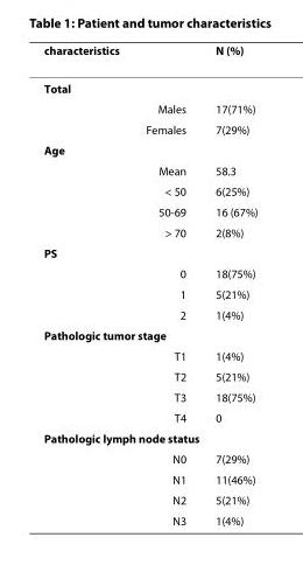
<table><thead><tr><td>characteristics</td><td>N (%)</td></tr></thead><tbody><tr><td colspan="2">Total</td></tr><tr><td>Males</td><td>17(71%)</td></tr><tr><td>Females</td><td>7(29%)</td></tr><tr><td colspan="2">Age</td></tr><tr><td>Mean</td><td>58.3</td></tr><tr><td>&lt; 50</td><td>6(25%)</td></tr><tr><td>50-69</td><td>16 (67%)</td></tr><tr><td>&gt; 70</td><td>2(8%)</td></tr><tr><td colspan="2">PS</td></tr><tr><td>0</td><td>18(75%)</td></tr><tr><td>1</td><td>5(21%)</td></tr><tr><td>2</td><td>1(4%)</td></tr><tr><td colspan="2">Pathologic tumor stage</td></tr><tr><td>T1</td><td>1(4%)</td></tr><tr><td>T2</td><td>5(21%)</td></tr><tr><td>T3</td><td>18(75%)</td></tr><tr><td>T4</td><td>0</td></tr><tr><td colspan="2">Pathologic lymph node status</td></tr><tr><td>N0</td><td>7(29%)</td></tr><tr><td>N1</td><td>11(46%)</td></tr><tr><td>N2</td><td>5(21%)</td></tr><tr><td>N3</td><td>1(4%)</td></tr></tbody></table>